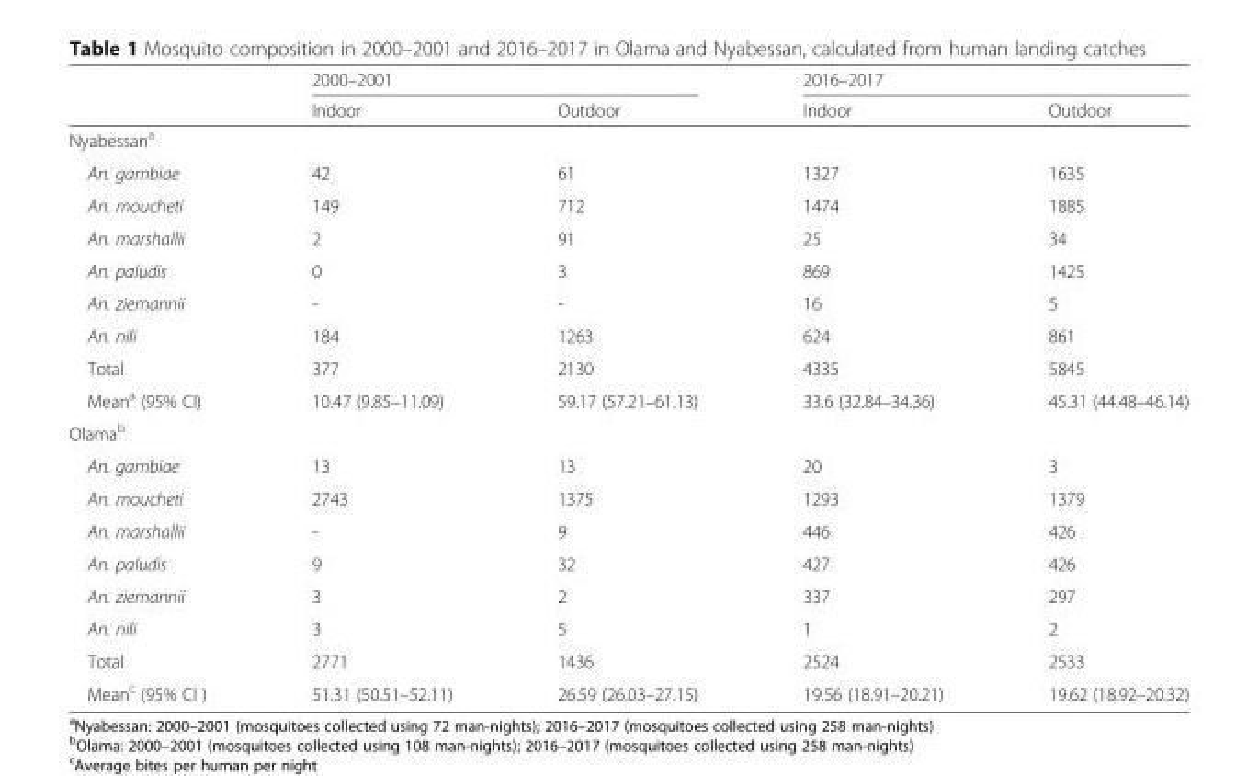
<table><thead><tr><td rowspan="2"></td><td colspan="2">2000–2001</td><td colspan="2">2016–2017</td></tr><tr><td>Indoor</td><td>Outdoor</td><td>Indoor</td><td>Outdoor</td></tr></thead><tbody><tr><td colspan="5">Nyabessan<sup>a</sup></td></tr><tr><td>An. gambiae</td><td>42</td><td>61</td><td>1327</td><td>1635</td></tr><tr><td>An. moucheti</td><td>149</td><td>712</td><td>1474</td><td>1885</td></tr><tr><td>An. marshallii</td><td>2</td><td>91</td><td>25</td><td>34</td></tr><tr><td>An. paludis</td><td>0</td><td>3</td><td>869</td><td>1425</td></tr><tr><td>An. ziemannii</td><td>-</td><td>-</td><td>16</td><td>5</td></tr><tr><td>An. nili</td><td>184</td><td>1263</td><td>624</td><td>861</td></tr><tr><td>Total</td><td>377</td><td>2130</td><td>4335</td><td>5845</td></tr><tr><td>Mean<sup>a</sup> (95% CI)</td><td>10.47 (9.85–11.09)</td><td>59.17 (57.21–61.13)</td><td>33.6 (32.84–34.36)</td><td>45.31 (44.48–46.14)</td></tr><tr><td colspan="5">Olama<sup>b</sup></td></tr><tr><td>An. gambiae</td><td>13</td><td>13</td><td>20</td><td>3</td></tr><tr><td>An. moucheti</td><td>2743</td><td>1375</td><td>1293</td><td>1379</td></tr><tr><td>An. marshallii</td><td>-</td><td>9</td><td>446</td><td>426</td></tr><tr><td>An. paludis</td><td>9</td><td>32</td><td>427</td><td>426</td></tr><tr><td>An. ziemannii</td><td>3</td><td>2</td><td>337</td><td>297</td></tr><tr><td>An. nili</td><td>3</td><td>5</td><td>1</td><td>2</td></tr><tr><td>Total</td><td>2771</td><td>1436</td><td>2524</td><td>2533</td></tr><tr><td>Mean<sup>c</sup> (95% CI )</td><td>51.31 (50.51–52.11)</td><td>26.59 (26.03–27.15)</td><td>19.56 (18.91–20.21)</td><td>19.62 (18.92–20.32)</td></tr></tbody></table>